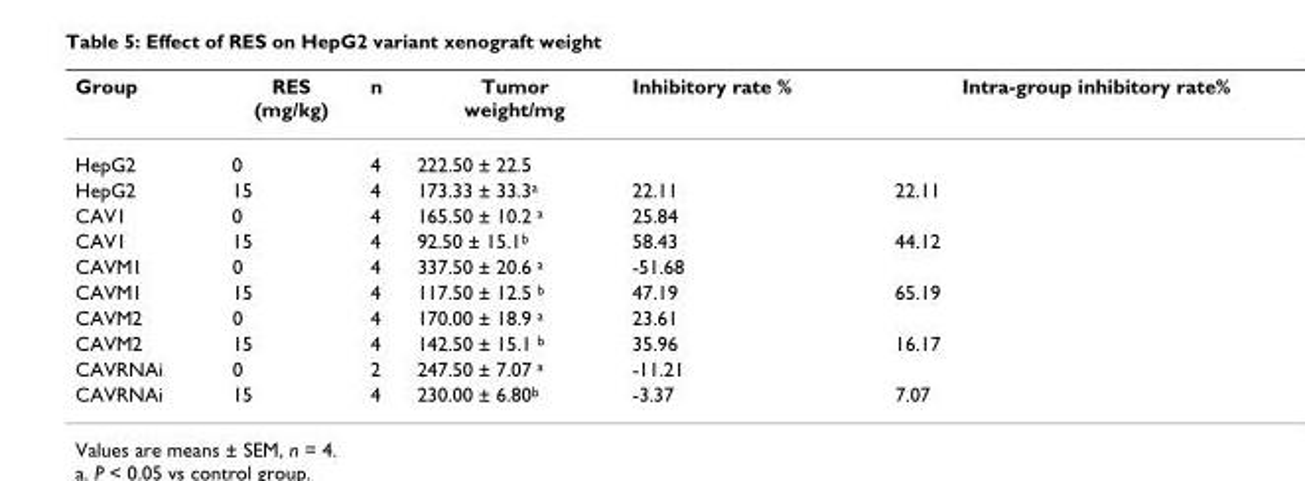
<table><thead><tr><td>Group</td><td>RES (mg/kg)</td><td>n</td><td>Tumor weight/mg</td><td>Inhibitory rate %</td><td>Intra-group inhibitory rate%</td></tr></thead><tbody><tr><td>HepG2</td><td>0</td><td>4</td><td>222.50 ± 22.5</td><td></td><td></td></tr><tr><td>HepG2</td><td>15</td><td>4</td><td>173.33 ± 33.3<sup>a</sup></td><td>22.11</td><td>22.11</td></tr><tr><td>CAV1</td><td>0</td><td>4</td><td>165.50 ± 10.2 <sup>a</sup></td><td>25.84</td><td></td></tr><tr><td>CAV1</td><td>15</td><td>4</td><td>92.50 ± 15.1<sup>b</sup></td><td>58.43</td><td>44.12</td></tr><tr><td>CAVM1</td><td>0</td><td>4</td><td>337.50 ± 20.6 <sup>a</sup></td><td>-51.68</td><td></td></tr><tr><td>CAVM1</td><td>15</td><td>4</td><td>117.50 ± 12.5 <sup>b</sup></td><td>47.19</td><td>65.19</td></tr><tr><td>CAVM2</td><td>0</td><td>4</td><td>170.00 ± 18.9 <sup>a</sup></td><td>23.61</td><td></td></tr><tr><td>CAVM2</td><td>15</td><td>4</td><td>142.50 ± 15.1 <sup>b</sup></td><td>35.96</td><td>16.17</td></tr><tr><td>CAVRNAi</td><td>0</td><td>2</td><td>247.50 ± 7.07 <sup>a</sup></td><td>-11.21</td><td></td></tr><tr><td>CAVRNAi</td><td>15</td><td>4</td><td>230.00 ± 6.80<sup>b</sup></td><td>-3.37</td><td>7.07</td></tr></tbody></table>